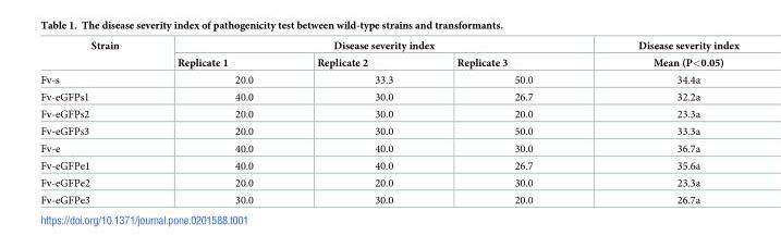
<table><thead><tr><td rowspan="2">Strain</td><td colspan="3">Disease severity index</td><td rowspan="2">Disease severity index Mean (P&lt;0.05)</td></tr><tr><td>Replicate 1</td><td>Replicate 2</td><td>Replicate 3</td></tr></thead><tbody><tr><td>Fv-s</td><td>20.0</td><td>33.3</td><td>50.0</td><td>34.4a</td></tr><tr><td>Fv-eGFPs1</td><td>40.0</td><td>30.0</td><td>26.7</td><td>32.2a</td></tr><tr><td>Fv-eGFPs2</td><td>20.0</td><td>30.0</td><td>20.0</td><td>23.3a</td></tr><tr><td>Fv-eGFPs3</td><td>20.0</td><td>30.0</td><td>50.0</td><td>33.3a</td></tr><tr><td>Fv-e</td><td>40.0</td><td>40.0</td><td>30.0</td><td>36.7a</td></tr><tr><td>Fv-eGFPe1</td><td>40.0</td><td>40.0</td><td>26.7</td><td>35.6a</td></tr><tr><td>Fv-eGFPe2</td><td>20.0</td><td>20.0</td><td>30.0</td><td>23.3a</td></tr><tr><td>Fv-eGFPe3</td><td>30.0</td><td>30.0</td><td>20.0</td><td>26.7a</td></tr></tbody></table>